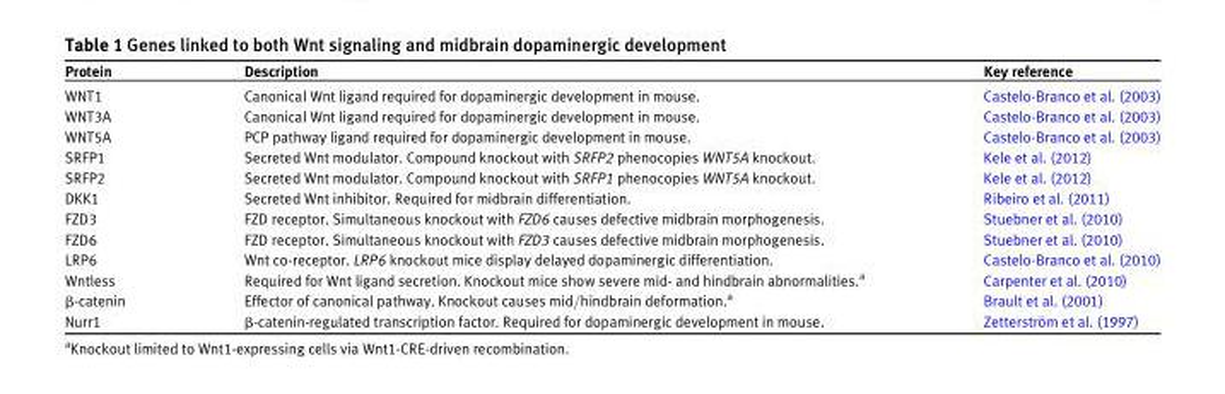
<table><thead><tr><td>Protein</td><td>Description</td><td>Key reference</td></tr></thead><tbody><tr><td>WNT1</td><td>Canonical Wnt ligand required for dopaminergic development in mouse.</td><td>Castelo-Branco et al. (2003)</td></tr><tr><td>WNT3A</td><td>Canonical Wnt ligand required for dopaminergic development in mouse.</td><td>Castelo-Branco et al. (2003)</td></tr><tr><td>WNT5A</td><td>PCP pathway ligand required for dopaminergic development in mouse.</td><td>Castelo-Branco et al. (2003)</td></tr><tr><td>SRFP1</td><td>Secreted Wnt modulator. Compound knockout with SRFP2 phenocopies WNT5A knockout.</td><td>Kele et al. (2012)</td></tr><tr><td>SRFP2</td><td>Secreted Wnt modulator. Compound knockout with SRFP1 phenocopies WNT5A knockout.</td><td>Kele et al. (2012)</td></tr><tr><td>DKK1</td><td>Secreted Wnt inhibitor. Required for midbrain differentiation.</td><td>Ribeiro et al. (2011)</td></tr><tr><td>FZD3</td><td>FZD receptor. Simultaneous knockout with FZD6 causes defective midbrain morphogenesis.</td><td>Stuebner et al. (2010)</td></tr><tr><td>FZD6</td><td>FZD receptor. Simultaneous knockout with FZD3 causes defective midbrain morphogenesis.</td><td>Stuebner et al. (2010)</td></tr><tr><td>LRP6</td><td>Wnt co-receptor. LRP6 knockout mice display delayed dopaminergic differentiation.</td><td>Castelo-Branco et al. (2010)</td></tr><tr><td>Wntless</td><td>Required for Wnt ligand secretion. Knockout mice show severe mid- and hindbrain abnormalities.<sup>a</sup></td><td>Carpenter et al. (2010)</td></tr><tr><td>β-catenin</td><td>Effector of canonical pathway. Knockout causes mid/hindbrain deformation.<sup>a</sup></td><td>Brault et al. (2001)</td></tr><tr><td>Nurr1</td><td>β-catenin-regulated transcription factor. Required for dopaminergic development in mouse.</td><td>Zetterstro¨m et al. (1997)</td></tr></tbody></table>